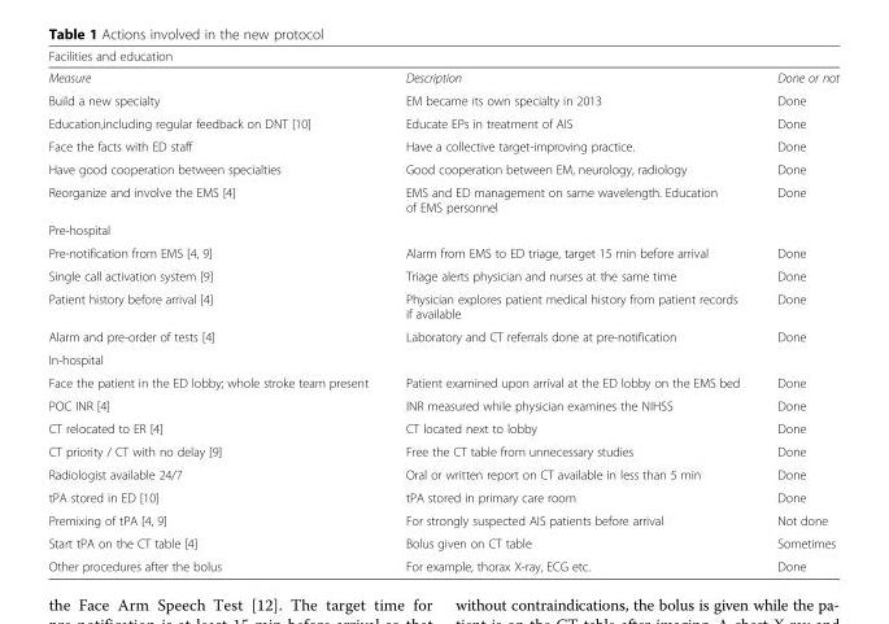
<table><thead><tr><td colspan="3">Facilities and education</td></tr><tr><td>Measure</td><td>Description</td><td>Done or not</td></tr></thead><tbody><tr><td>Build a new specialty</td><td>EM became its own specialty in 2013</td><td>Done</td></tr><tr><td>Education,including regular feedback on DNT [10]</td><td>Educate EPs in treatment of AIS</td><td>Done</td></tr><tr><td>Face the facts with ED staff</td><td>Have a collective target-improving practice.</td><td>Done</td></tr><tr><td>Have good cooperation between specialties</td><td>Good cooperation between EM, neurology, radiology</td><td>Done</td></tr><tr><td>Reorganize and involve the EMS [4]</td><td>EMS and ED management on same wavelength. Education of EMS personnel</td><td>Done</td></tr><tr><td colspan="3">Pre-hospital</td></tr><tr><td>Pre-notification from EMS [4, 9]</td><td>Alarm from EMS to ED triage, target 15 min before arrival</td><td>Done</td></tr><tr><td>Single call activation system [9]</td><td>Triage alerts physician and nurses at the same time</td><td>Done</td></tr><tr><td>Patient history before arrival [4]</td><td>Physician explores patient medical history from patient records if available</td><td>Done</td></tr><tr><td>Alarm and pre-order of tests [4]</td><td>Laboratory and CT referrals done at pre-notification</td><td>Done</td></tr><tr><td colspan="3">In-hospital</td></tr><tr><td>Face the patient in the ED lobby; whole stroke team present</td><td>Patient examined upon arrival at the ED lobby on the EMS bed</td><td>Done</td></tr><tr><td>POC INR [4]</td><td>INR measured while physician examines the NIHSS</td><td>Done</td></tr><tr><td>CT relocated to ER [4]</td><td>CT located next to lobby</td><td>Done</td></tr><tr><td>CT priority / CT with no delay [9]</td><td>Free the CT table from unnecessary studies</td><td>Done</td></tr><tr><td>Radiologist available 24/7</td><td>Oral or written report on CT available in less than 5 min</td><td>Done</td></tr><tr><td>tPA stored in ED [10]</td><td>tPA stored in primary care room</td><td>Done</td></tr><tr><td>Premixing of tPA [4, 9]</td><td>For strongly suspected AIS patients before arrival</td><td>Not done</td></tr><tr><td>Start tPA on the CT table [4]</td><td>Bolus given on CT table</td><td>Sometimes</td></tr><tr><td>Other procedures after the bolus</td><td>For example, thorax X-ray, ECG etc.</td><td>Done</td></tr></tbody></table>